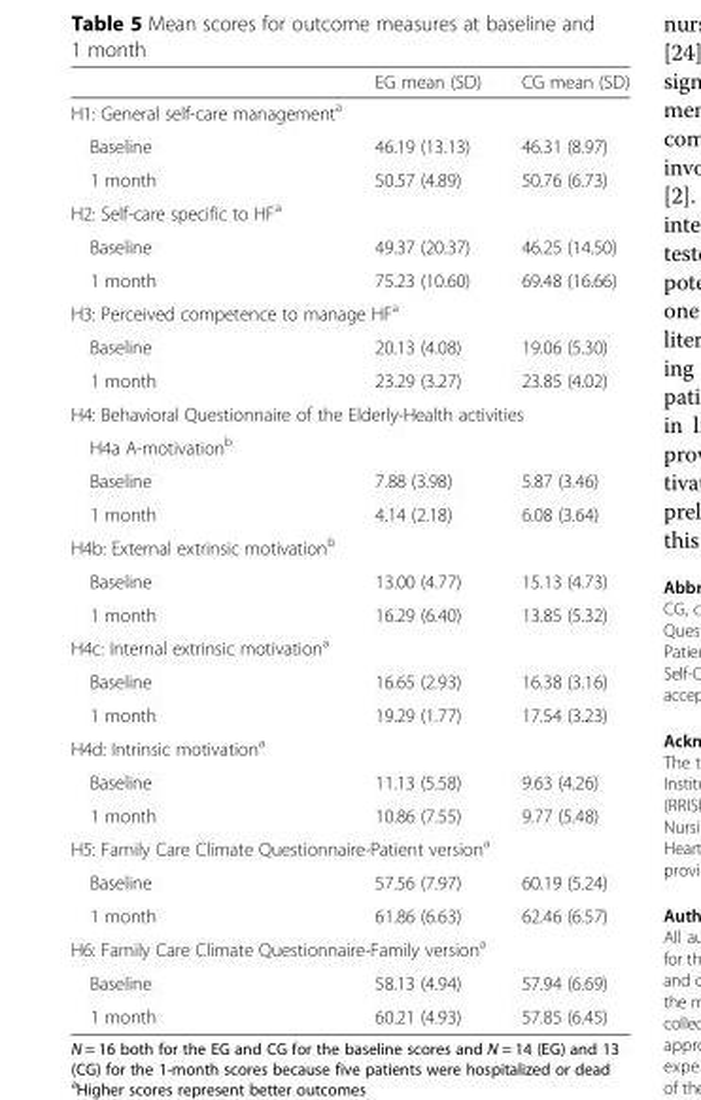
<table><thead><tr><td></td><td>EG mean (SD)</td><td>CG mean (SD)</td></tr></thead><tbody><tr><td colspan="3">H1: General self-care management<sup>a</sup></td></tr><tr><td>Baseline</td><td>46.19 (13.13)</td><td>46.31 (8.97)</td></tr><tr><td>1 month</td><td>50.57 (4.89)</td><td>50.76 (6.73)</td></tr><tr><td colspan="3">H2: Self-care specific to HF<sup>a</sup></td></tr><tr><td>Baseline</td><td>49.37 (20.37)</td><td>46.25 (14.50)</td></tr><tr><td>1 month</td><td>75.23 (10.60)</td><td>69.48 (16.66)</td></tr><tr><td colspan="3">H3: Perceived competence to manage HF<sup>a</sup></td></tr><tr><td>Baseline</td><td>20.13 (4.08)</td><td>19.06 (5.30)</td></tr><tr><td>1 month</td><td>23.29 (3.27)</td><td>23.85 (4.02)</td></tr><tr><td colspan="3">H4: Behavioral Questionnaire of the Elderly-Health activities</td></tr><tr><td colspan="3">H4a A-motivation<sup>b</sup></td></tr><tr><td>Baseline</td><td>7.88 (3.98)</td><td>5.87 (3.46)</td></tr><tr><td>1 month</td><td>4.14 (2.18)</td><td>6.08 (3.64)</td></tr><tr><td colspan="3">H4b: External extrinsic motivation<sup>b</sup></td></tr><tr><td>Baseline</td><td>13.00 (4.77)</td><td>15.13 (4.73)</td></tr><tr><td>1 month</td><td>16.29 (6.40)</td><td>13.85 (5.32)</td></tr><tr><td colspan="3">H4c: Internal extrinsic motivation<sup>a</sup></td></tr><tr><td>Baseline</td><td>16.65 (2.93)</td><td>16.38 (3.16)</td></tr><tr><td>1 month</td><td>19.29 (1.77)</td><td>17.54 (3.23)</td></tr><tr><td colspan="3">H4d: Intrinsic motivation<sup>a</sup></td></tr><tr><td>Baseline</td><td>11.13 (5.58)</td><td>9.63 (4.26)</td></tr><tr><td>1 month</td><td>10.86 (7.55)</td><td>9.77 (5.48)</td></tr><tr><td colspan="3">H5: Family Care Climate Questionnaire-Patient version<sup>a</sup></td></tr><tr><td>Baseline</td><td>57.56 (7.97)</td><td>60.19 (5.24)</td></tr><tr><td>1 month</td><td>61.86 (6.63)</td><td>62.46 (6.57)</td></tr><tr><td colspan="3">H6: Family Care Climate Questionnaire-Family version<sup>a</sup></td></tr><tr><td>Baseline</td><td>58.13 (4.94)</td><td>57.94 (6.69)</td></tr><tr><td>1 month</td><td>60.21 (4.93)</td><td>57.85 (6.45)</td></tr></tbody></table>